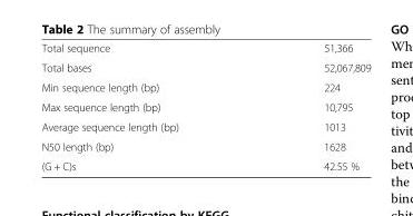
<table><tbody><tr><td>Total sequence</td><td>51,366</td></tr><tr><td>Total bases</td><td>52,067,809</td></tr><tr><td>Min sequence length (bp)</td><td>224</td></tr><tr><td>Max sequence length (bp)</td><td>10,795</td></tr><tr><td>Average sequence length (bp)</td><td>1013</td></tr><tr><td>N50 length (bp)</td><td>1628</td></tr><tr><td>(G + C)s</td><td>42.55 %</td></tr></tbody></table>